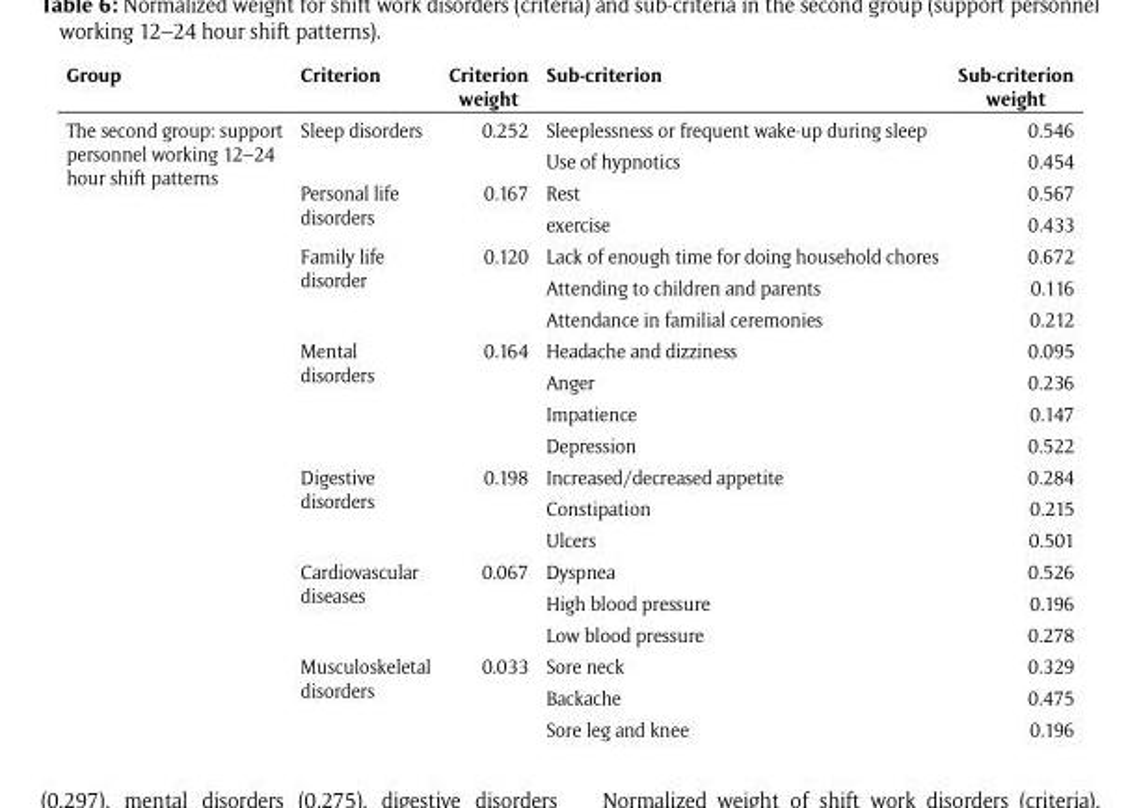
<table><thead><tr><td>Group</td><td>Criterion</td><td>Criterion weight</td><td>Sub-criterion</td><td>Sub-criterion weight</td></tr></thead><tbody><tr><td rowspan="20">The second group: support personnel working 12–24 hour shift patterns</td><td rowspan="2">Sleep disorders</td><td rowspan="2">0.252</td><td>Sleeplessness or frequent wake-up during sleep</td><td>0.546</td></tr><tr><td>Use of hypnotics</td><td>0.454</td></tr><tr><td rowspan="2">Personal life disorders</td><td rowspan="2">0.167</td><td>Rest</td><td>0.567</td></tr><tr><td>exercise</td><td>0.433</td></tr><tr><td rowspan="3">Family life disorder</td><td rowspan="3">0.120</td><td>Lack of enough time for doing household chores</td><td>0.672</td></tr><tr><td>Attending to children and parents</td><td>0.116</td></tr><tr><td>Attendance in familial ceremonies</td><td>0.212</td></tr><tr><td rowspan="4">Mental disorders</td><td rowspan="4">0.164</td><td>Headache and dizziness</td><td>0.095</td></tr><tr><td>Anger</td><td>0.236</td></tr><tr><td>Impatience</td><td>0.147</td></tr><tr><td>Depression</td><td>0.522</td></tr><tr><td rowspan="3">Digestive disorders</td><td rowspan="3">0.198</td><td>Increased/decreased appetite</td><td>0.284</td></tr><tr><td>Constipation</td><td>0.215</td></tr><tr><td>Ulcers</td><td>0.501</td></tr><tr><td rowspan="3">Cardiovascular diseases</td><td rowspan="3">0.067</td><td>Dyspnea</td><td>0.526</td></tr><tr><td>High blood pressure</td><td>0.196</td></tr><tr><td>Low blood pressure</td><td>0.278</td></tr><tr><td rowspan="3">Musculoskeletal disorders</td><td rowspan="3">0.033</td><td>Sore neck</td><td>0.329</td></tr><tr><td>Backache</td><td>0.475</td></tr><tr><td>Sore leg and knee</td><td>0.196</td></tr></tbody></table>